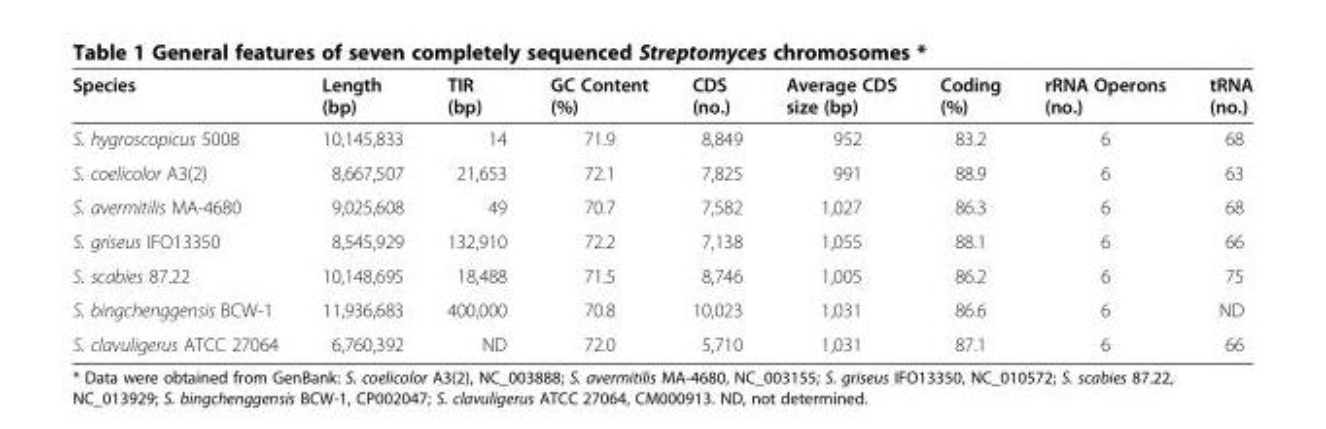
<table><thead><tr><td>Species</td><td>Length (bp)</td><td>TIR (bp)</td><td>GC Content (%)</td><td>CDS (no.)</td><td>Average CDS size (bp)</td><td>Coding (%)</td><td>rRNA Operons (no.)</td><td>tRNA (no.)</td></tr></thead><tbody><tr><td>S. hygroscopicus 5008</td><td>10,145,833</td><td>14</td><td>71.9</td><td>8,849</td><td>952</td><td>83.2</td><td>6</td><td>68</td></tr><tr><td>S. coelicolor A3(2)</td><td>8,667,507</td><td>21,653</td><td>72.1</td><td>7,825</td><td>991</td><td>88.9</td><td>6</td><td>63</td></tr><tr><td>S. avermitilis MA-4680</td><td>9,025,608</td><td>49</td><td>70.7</td><td>7,582</td><td>1,027</td><td>86.3</td><td>6</td><td>68</td></tr><tr><td>S. griseus IFO13350</td><td>8,545,929</td><td>132,910</td><td>72.2</td><td>7,138</td><td>1,055</td><td>88.1</td><td>6</td><td>66</td></tr><tr><td>S. scabies 87.22</td><td>10,148,695</td><td>18,488</td><td>71.5</td><td>8,746</td><td>1,005</td><td>86.2</td><td>6</td><td>75</td></tr><tr><td>S. bingchenggensis BCW-1</td><td>11,936,683</td><td>400,000</td><td>70.8</td><td>10,023</td><td>1,031</td><td>86.6</td><td>6</td><td>ND</td></tr><tr><td>S. clavuligerus ATCC 27064</td><td>6,760,392</td><td>ND</td><td>72.0</td><td>5,710</td><td>1,031</td><td>87.1</td><td>6</td><td>66</td></tr></tbody></table>